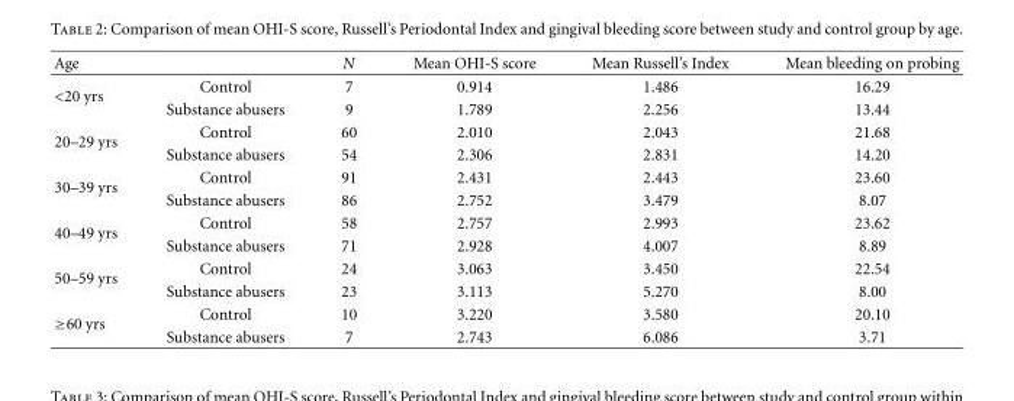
<table><thead><tr><td>Age</td><td></td><td>N</td><td>Mean OHI-S score</td><td>Mean Russell’s Index</td><td>Mean bleeding on probing</td></tr></thead><tbody><tr><td rowspan="2">&lt;20 yrs</td><td>Control</td><td>7</td><td>0.914</td><td>1.486</td><td>16.29</td></tr><tr><td>Substance abusers</td><td>9</td><td>1.789</td><td>2.256</td><td>13.44</td></tr><tr><td rowspan="2">20–29 yrs</td><td>Control</td><td>60</td><td>2.010</td><td>2.043</td><td>21.68</td></tr><tr><td>Substance abusers</td><td>54</td><td>2.306</td><td>2.831</td><td>14.20</td></tr><tr><td rowspan="2">30–39 yrs</td><td>Control</td><td>91</td><td>2.431</td><td>2.443</td><td>23.60</td></tr><tr><td>Substance abusers</td><td>86</td><td>2.752</td><td>3.479</td><td>8.07</td></tr><tr><td rowspan="2">40–49 yrs</td><td>Control</td><td>58</td><td>2.757</td><td>2.993</td><td>23.62</td></tr><tr><td>Substance abusers</td><td>71</td><td>2.928</td><td>4.007</td><td>8.89</td></tr><tr><td rowspan="2">50–59 yrs</td><td>Control</td><td>24</td><td>3.063</td><td>3.450</td><td>22.54</td></tr><tr><td>Substance abusers</td><td>23</td><td>3.113</td><td>5.270</td><td>8.00</td></tr><tr><td rowspan="2">≥60 yrs</td><td>Control</td><td>10</td><td>3.220</td><td>3.580</td><td>20.10</td></tr><tr><td>Substance abusers</td><td>7</td><td>2.743</td><td>6.086</td><td>3.71</td></tr></tbody></table>